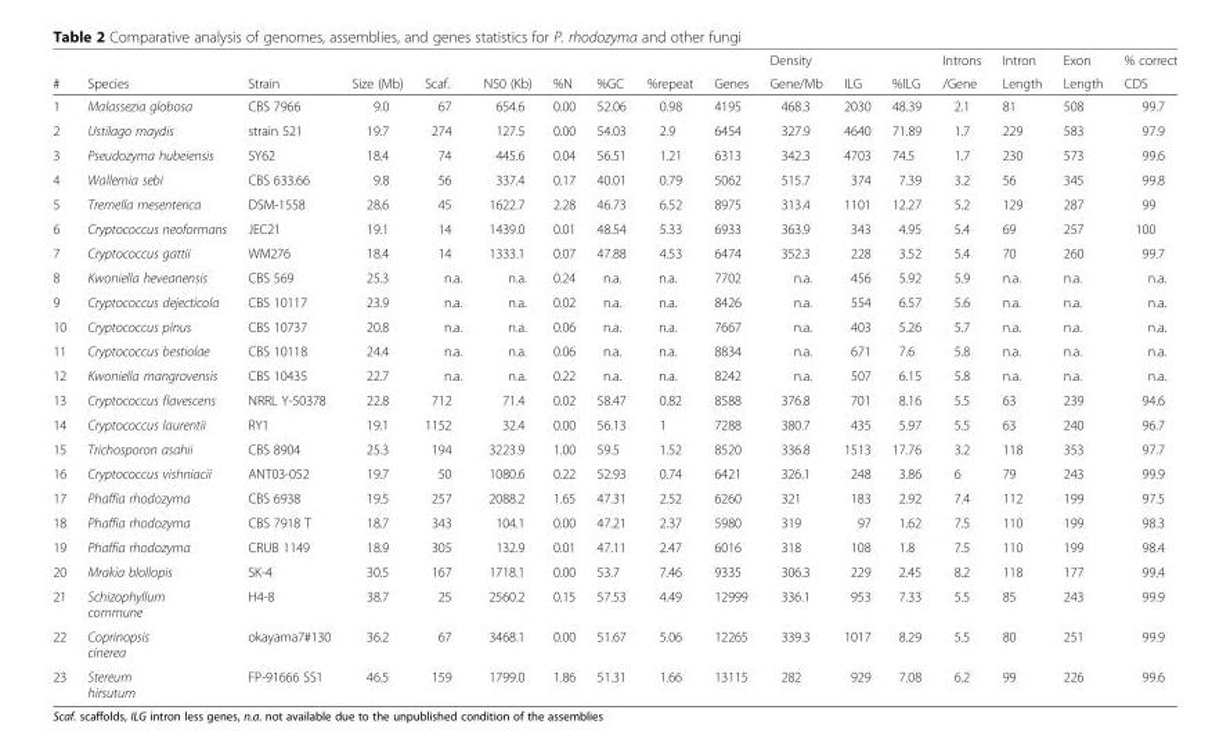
<table><thead><tr><td rowspan="2">#</td><td rowspan="2">Species</td><td rowspan="2">Strain</td><td rowspan="2">Size (Mb)</td><td rowspan="2">Scaf.</td><td rowspan="2">N50 (Kb)</td><td rowspan="2">%N</td><td rowspan="2">%GC</td><td rowspan="2">%repeat</td><td rowspan="2">Genes</td><td rowspan="2">Density Gene/Mb</td><td rowspan="2">ILG</td><td rowspan="2">%ILG</td><td rowspan="2">Introns /Gene</td><td rowspan="2">Intron Length</td><td rowspan="2">Exon Length</td><td rowspan="2">% correct CDS</td></tr><tr></tr></thead><tbody><tr><td>1</td><td>Malassezia globosa</td><td>CBS 7966</td><td>9.0</td><td>67</td><td>654.6</td><td>0.00</td><td>52.06</td><td>0.98</td><td>4195</td><td>468.3</td><td>2030</td><td>48.39</td><td>2.1</td><td>81</td><td>508</td><td>99.7</td></tr><tr><td>2</td><td>Ustilago maydis</td><td>strain 521</td><td>19.7</td><td>274</td><td>127.5</td><td>0.00</td><td>54.03</td><td>2.9</td><td>6454</td><td>327.9</td><td>4640</td><td>71.89</td><td>1.7</td><td>229</td><td>583</td><td>97.9</td></tr><tr><td>3</td><td>Pseudozyma hubeiensis</td><td>SY62</td><td>18.4</td><td>74</td><td>445.6</td><td>0.04</td><td>56.51</td><td>1.21</td><td>6313</td><td>342.3</td><td>4703</td><td>74.5</td><td>1.7</td><td>230</td><td>573</td><td>99.6</td></tr><tr><td>4</td><td>Wallemia sebi</td><td>CBS 633.66</td><td>9.8</td><td>56</td><td>337.4</td><td>0.17</td><td>40.01</td><td>0.79</td><td>5062</td><td>515.7</td><td>374</td><td>7.39</td><td>3.2</td><td>56</td><td>345</td><td>99.8</td></tr><tr><td>5</td><td>Tremella mesenterica</td><td>DSM-1558</td><td>28.6</td><td>45</td><td>1622.7</td><td>2.28</td><td>46.73</td><td>6.52</td><td>8975</td><td>313.4</td><td>1101</td><td>12.27</td><td>5.2</td><td>129</td><td>287</td><td>99</td></tr><tr><td>6</td><td>Cryptococcus neoformans</td><td>JEC21</td><td>19.1</td><td>14</td><td>1439.0</td><td>0.01</td><td>48.54</td><td>5.33</td><td>6933</td><td>363.9</td><td>343</td><td>4.95</td><td>5.4</td><td>69</td><td>257</td><td>100</td></tr><tr><td>7</td><td>Cryptococcus gattii</td><td>WM276</td><td>18.4</td><td>14</td><td>1333.1</td><td>0.07</td><td>47.88</td><td>4.53</td><td>6474</td><td>352.3</td><td>228</td><td>3.52</td><td>5.4</td><td>70</td><td>260</td><td>99.7</td></tr><tr><td>8</td><td>Kwoniella heveanensis</td><td>CBS 569</td><td>25.3</td><td>n.a.</td><td>n.a.</td><td>0.24</td><td>n.a.</td><td>n.a.</td><td>7702</td><td>n.a.</td><td>456</td><td>5.92</td><td>5.9</td><td>n.a.</td><td>n.a.</td><td>n.a.</td></tr><tr><td>9</td><td>Cryptococcus dejecticola</td><td>CBS 10117</td><td>23.9</td><td>n.a.</td><td>n.a.</td><td>0.02</td><td>n.a.</td><td>n.a.</td><td>8426</td><td>n.a.</td><td>554</td><td>6.57</td><td>5.6</td><td>n.a.</td><td>n.a.</td><td>n.a.</td></tr><tr><td>10</td><td>Cryptococcus pinus</td><td>CBS 10737</td><td>20.8</td><td>n.a.</td><td>n.a.</td><td>0.06</td><td>n.a.</td><td>n.a.</td><td>7667</td><td>n.a.</td><td>403</td><td>5.26</td><td>5.7</td><td>n.a.</td><td>n.a.</td><td>n.a.</td></tr><tr><td>11</td><td>Cryptococcus bestiolae</td><td>CBS 10118</td><td>24.4</td><td>n.a.</td><td>n.a.</td><td>0.06</td><td>n.a.</td><td>n.a.</td><td>8834</td><td>n.a.</td><td>671</td><td>7.6</td><td>5.8</td><td>n.a.</td><td>n.a.</td><td>n.a.</td></tr><tr><td>12</td><td>Kwoniella mangrovensis</td><td>CBS 10435</td><td>22.7</td><td>n.a.</td><td>n.a.</td><td>0.22</td><td>n.a.</td><td>n.a.</td><td>8242</td><td>n.a.</td><td>507</td><td>6.15</td><td>5.8</td><td>n.a.</td><td>n.a.</td><td>n.a.</td></tr><tr><td>13</td><td>Cryptococcus flavescens</td><td>NRRL Y-50378</td><td>22.8</td><td>712</td><td>71.4</td><td>0.02</td><td>58.47</td><td>0.82</td><td>8588</td><td>376.8</td><td>701</td><td>8.16</td><td>5.5</td><td>63</td><td>239</td><td>94.6</td></tr><tr><td>14</td><td>Cryptococcus laurentii</td><td>RY1</td><td>19.1</td><td>1152</td><td>32.4</td><td>0.00</td><td>56.13</td><td>1</td><td>7288</td><td>380.7</td><td>435</td><td>5.97</td><td>5.5</td><td>63</td><td>240</td><td>96.7</td></tr><tr><td>15</td><td>Trichosporon asahii</td><td>CBS 8904</td><td>25.3</td><td>194</td><td>3223.9</td><td>1.00</td><td>59.5</td><td>1.52</td><td>8520</td><td>336.8</td><td>1513</td><td>17.76</td><td>3.2</td><td>118</td><td>353</td><td>97.7</td></tr><tr><td>16</td><td>Cryptococcus vishniacii</td><td>ANT03-052</td><td>19.7</td><td>50</td><td>1080.6</td><td>0.22</td><td>52.93</td><td>0.74</td><td>6421</td><td>326.1</td><td>248</td><td>3.86</td><td>6</td><td>79</td><td>243</td><td>99.9</td></tr><tr><td>17</td><td>Phaffia rhodozyma</td><td>CBS 6938</td><td>19.5</td><td>257</td><td>2088.2</td><td>1.65</td><td>47.31</td><td>2.52</td><td>6260</td><td>321</td><td>183</td><td>2.92</td><td>7.4</td><td>112</td><td>199</td><td>97.5</td></tr><tr><td>18</td><td>Phaffia rhodozyma</td><td>CBS 7918 T</td><td>18.7</td><td>343</td><td>104.1</td><td>0.00</td><td>47.21</td><td>2.37</td><td>5980</td><td>319</td><td>97</td><td>1.62</td><td>7.5</td><td>110</td><td>199</td><td>98.3</td></tr><tr><td>19</td><td>Phaffia rhodozyma</td><td>CRUB 1149</td><td>18.9</td><td>305</td><td>132.9</td><td>0.01</td><td>47.11</td><td>2.47</td><td>6016</td><td>318</td><td>108</td><td>1.8</td><td>7.5</td><td>110</td><td>199</td><td>98.4</td></tr><tr><td>20</td><td>Mrakia blollopis</td><td>SK-4</td><td>30.5</td><td>167</td><td>1718.1</td><td>0.00</td><td>53.7</td><td>7.46</td><td>9335</td><td>306.3</td><td>229</td><td>2.45</td><td>8.2</td><td>118</td><td>177</td><td>99.4</td></tr><tr><td>21</td><td>Schizophyllum commune</td><td>H4-8</td><td>38.7</td><td>25</td><td>2560.2</td><td>0.15</td><td>57.53</td><td>4.49</td><td>12999</td><td>336.1</td><td>953</td><td>7.33</td><td>5.5</td><td>85</td><td>243</td><td>99.9</td></tr><tr><td>22</td><td>Coprinopsis cinerea</td><td>okayama7#130</td><td>36.2</td><td>67</td><td>3468.1</td><td>0.00</td><td>51.67</td><td>5.06</td><td>12265</td><td>339.3</td><td>1017</td><td>8.29</td><td>5.5</td><td>80</td><td>251</td><td>99.9</td></tr><tr><td>23</td><td>Stereum hirsutum</td><td>FP-91666 SS1</td><td>46.5</td><td>159</td><td>1799.0</td><td>1.86</td><td>51.31</td><td>1.66</td><td>13115</td><td>282</td><td>929</td><td>7.08</td><td>6.2</td><td>99</td><td>226</td><td>99.6</td></tr></tbody></table>